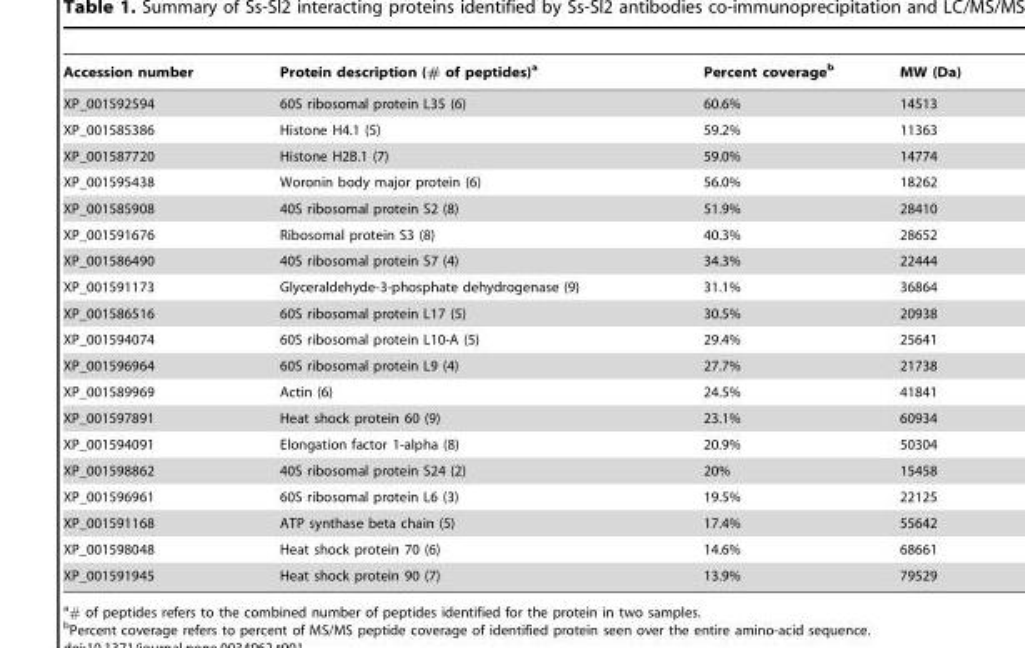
<table><thead><tr><td>Accession number</td><td>Protein description (# of peptides)<sup>a</sup></td><td>Percent coverage<sup>b</sup></td><td>MW (Da)</td></tr></thead><tbody><tr><td>XP_001592594</td><td>60S ribosomal protein L35 (6)</td><td>60.6%</td><td>14513</td></tr><tr><td>XP_001585386</td><td>Histone H4.1 (5)</td><td>59.2%</td><td>11363</td></tr><tr><td>XP_001587720</td><td>Histone H2B.1 (7)</td><td>59.0%</td><td>14774</td></tr><tr><td>XP_001595438</td><td>Woronin body major protein (6)</td><td>56.0%</td><td>18262</td></tr><tr><td>XP_001585908</td><td>40S ribosomal protein S2 (8)</td><td>51.9%</td><td>28410</td></tr><tr><td>XP_001591676</td><td>Ribosomal protein S3 (8)</td><td>40.3%</td><td>28652</td></tr><tr><td>XP_001586490</td><td>40S ribosomal protein S7 (4)</td><td>34.3%</td><td>22444</td></tr><tr><td>XP_001591173</td><td>Glyceraldehyde-3-phosphate dehydrogenase (9)</td><td>31.1%</td><td>36864</td></tr><tr><td>XP_001586516</td><td>60S ribosomal protein L17 (5)</td><td>30.5%</td><td>20938</td></tr><tr><td>XP_001594074</td><td>60S ribosomal protein L10-A (5)</td><td>29.4%</td><td>25641</td></tr><tr><td>XP_001596964</td><td>60S ribosomal protein L9 (4)</td><td>27.7%</td><td>21738</td></tr><tr><td>XP_001589969</td><td>Actin (6)</td><td>24.5%</td><td>41841</td></tr><tr><td>XP_001597891</td><td>Heat shock protein 60 (9)</td><td>23.1%</td><td>60934</td></tr><tr><td>XP_001594091</td><td>Elongation factor 1-alpha (8)</td><td>20.9%</td><td>50304</td></tr><tr><td>XP_001598862</td><td>40S ribosomal protein S24 (2)</td><td>20%</td><td>15458</td></tr><tr><td>XP_001596961</td><td>60S ribosomal protein L6 (3)</td><td>19.5%</td><td>22125</td></tr><tr><td>XP_001591168</td><td>ATP synthase beta chain (5)</td><td>17.4%</td><td>55642</td></tr><tr><td>XP_001598048</td><td>Heat shock protein 70 (6)</td><td>14.6%</td><td>68661</td></tr><tr><td>XP_001591945</td><td>Heat shock protein 90 (7)</td><td>13.9%</td><td>79529</td></tr></tbody></table>